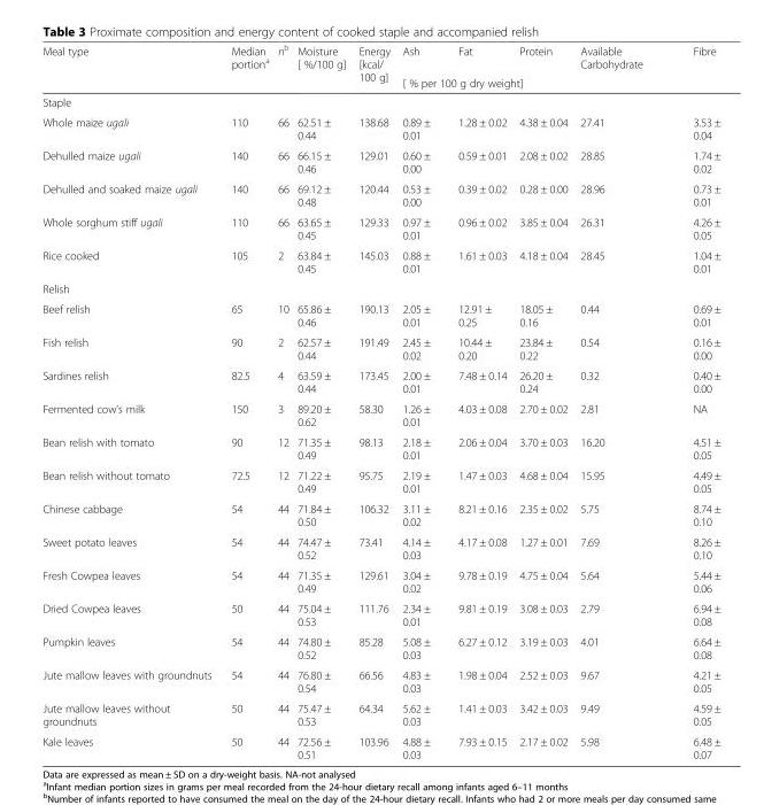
<table><thead><tr><td rowspan="2">Meal type</td><td rowspan="2">Median portion<sup>a</sup></td><td rowspan="2">n<sup>b</sup></td><td rowspan="2">Moisture [ %/100 g]</td><td rowspan="2">Energy [kcal/ 100 g]</td><td>Ash</td><td>Fat</td><td>Protein</td><td>Available Carbohydrate</td><td>Fibre</td></tr><tr><td colspan="5">[ % per 100 g dry weight]</td></tr></thead><tbody><tr><td colspan="10">Staple</td></tr><tr><td>Whole maize ugali</td><td>110</td><td>66</td><td>62.51 ± 0.44</td><td>138.68</td><td>0.89 ± 0.01</td><td>1.28 ± 0.02</td><td>4.38 ± 0.04</td><td>27.41</td><td>3.53 ± 0.04</td></tr><tr><td>Dehulled maize ugali</td><td>140</td><td>66</td><td>66.15 ± 0.46</td><td>129.01</td><td>0.60 ± 0.00</td><td>0.59 ± 0.01</td><td>2.08 ± 0.02</td><td>28.85</td><td>1.74 ± 0.02</td></tr><tr><td>Dehulled and soaked maize ugali</td><td>140</td><td>66</td><td>69.12 ± 0.48</td><td>120.44</td><td>0.53 ± 0.00</td><td>0.39 ± 0.02</td><td>0.28 ± 0.00</td><td>28.96</td><td>0.73 ± 0.01</td></tr><tr><td>Whole sorghum stiff ugali</td><td>110</td><td>66</td><td>63.65 ± 0.45</td><td>129.33</td><td>0.97 ± 0.01</td><td>0.96 ± 0.02</td><td>3.85 ± 0.04</td><td>26.31</td><td>4.26 ± 0.05</td></tr><tr><td>Rice cooked</td><td>105</td><td>2</td><td>63.84 ± 0.45</td><td>145.03</td><td>0.88 ± 0.01</td><td>1.61 ± 0.03</td><td>4.18 ± 0.04</td><td>28.45</td><td>1.04 ± 0.01</td></tr><tr><td colspan="10">Relish</td></tr><tr><td>Beef relish</td><td>65</td><td>10</td><td>65.86 ± 0.46</td><td>190.13</td><td>2.05 ± 0.01</td><td>12.91 ± 0.25</td><td>18.05 ± 0.16</td><td>0.44</td><td>0.69 ± 0.01</td></tr><tr><td>Fish relish</td><td>90</td><td>2</td><td>62.57 ± 0.44</td><td>191.49</td><td>2.45 ± 0.02</td><td>10.44 ± 0.20</td><td>23.84 ± 0.22</td><td>0.54</td><td>0.16 ± 0.00</td></tr><tr><td>Sardines relish</td><td>82.5</td><td>4</td><td>63.59 ± 0.44</td><td>173.45</td><td>2.00 ± 0.01</td><td>7.48 ± 0.14</td><td>26.20 ± 0.24</td><td>0.32</td><td>0.40 ± 0.00</td></tr><tr><td>Fermented cow’s milk</td><td>150</td><td>3</td><td>89.20 ± 0.62</td><td>58.30</td><td>1.26 ± 0.01</td><td>4.03 ± 0.08</td><td>2.70 ± 0.02</td><td>2.81</td><td>NA</td></tr><tr><td>Bean relish with tomato</td><td>90</td><td>12</td><td>71.35 ± 0.49</td><td>98.13</td><td>2.18 ± 0.01</td><td>2.06 ± 0.04</td><td>3.70 ± 0.03</td><td>16.20</td><td>4.51 ± 0.05</td></tr><tr><td>Bean relish without tomato</td><td>72.5</td><td>12</td><td>71.22 ± 0.49</td><td>95.75</td><td>2.19 ± 0.01</td><td>1.47 ± 0.03</td><td>4.68 ± 0.04</td><td>15.95</td><td>4.49 ± 0.05</td></tr><tr><td>Chinese cabbage</td><td>54</td><td>44</td><td>71.84 ± 0.50</td><td>106.32</td><td>3.11 ± 0.02</td><td>8.21 ± 0.16</td><td>2.35 ± 0.02</td><td>5.75</td><td>8.74 ± 0.10</td></tr><tr><td>Sweet potato leaves</td><td>54</td><td>44</td><td>74.47 ± 0.52</td><td>73.41</td><td>4.14 ± 0.03</td><td>4.17 ± 0.08</td><td>1.27 ± 0.01</td><td>7.69</td><td>8.26 ± 0.10</td></tr><tr><td>Fresh Cowpea leaves</td><td>54</td><td>44</td><td>71.35 ± 0.49</td><td>129.61</td><td>3.04 ± 0.02</td><td>9.78 ± 0.19</td><td>4.75 ± 0.04</td><td>5.64</td><td>5.44 ± 0.06</td></tr><tr><td>Dried Cowpea leaves</td><td>50</td><td>44</td><td>75.04 ± 0.53</td><td>111.76</td><td>2.34 ± 0.01</td><td>9.81 ± 0.19</td><td>3.08 ± 0.03</td><td>2.79</td><td>6.94 ± 0.08</td></tr><tr><td>Pumpkin leaves</td><td>54</td><td>44</td><td>74.80 ± 0.52</td><td>85.28</td><td>5.08 ± 0.03</td><td>6.27 ± 0.12</td><td>3.19 ± 0.03</td><td>4.01</td><td>6.64 ± 0.08</td></tr><tr><td>Jute mallow leaves with groundnuts</td><td>54</td><td>44</td><td>76.80 ± 0.54</td><td>66.56</td><td>4.83 ± 0.03</td><td>1.98 ± 0.04</td><td>2.52 ± 0.03</td><td>9.67</td><td>4.21 ± 0.05</td></tr><tr><td>Jute mallow leaves without groundnuts</td><td>50</td><td>44</td><td>75.47 ± 0.53</td><td>64.34</td><td>5.62 ± 0.03</td><td>1.41 ± 0.03</td><td>3.42 ± 0.03</td><td>9.49</td><td>4.59 ± 0.05</td></tr><tr><td>Kale leaves</td><td>50</td><td>44</td><td>72.56 ± 0.51</td><td>103.96</td><td>4.88 ± 0.03</td><td>7.93 ± 0.15</td><td>2.17 ± 0.02</td><td>5.98</td><td>6.48 ± 0.07</td></tr></tbody></table>